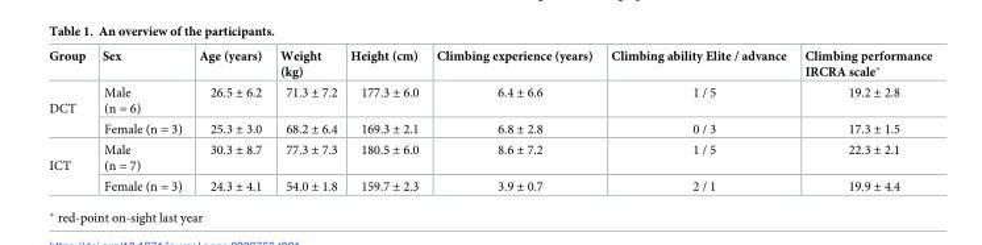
<table><thead><tr><td>Group</td><td>Sex</td><td>Age (years)</td><td>Weight (kg)</td><td>Height (cm)</td><td>Climbing experience (years)</td><td>Climbing ability Elite / advance</td><td>Climbing performance IRCRA scale*</td></tr></thead><tbody><tr><td rowspan="2">DCT</td><td>Male (n = 6)</td><td>26.5 ± 6.2</td><td>71.3 ± 7.2</td><td>177.3 ± 6.0</td><td>6.4 ± 6.6</td><td>1 / 5</td><td>19.2 ± 2.8</td></tr><tr><td>Female (n = 3)</td><td>25.3 ± 3.0</td><td>68.2 ± 6.4</td><td>169.3 ± 2.1</td><td>6.8 ± 2.8</td><td>0 / 3</td><td>17.3 ± 1.5</td></tr><tr><td rowspan="2">ICT</td><td>Male (n = 7)</td><td>30.3 ± 8.7</td><td>77.3 ± 7.3</td><td>180.5 ± 6.0</td><td>8.6 ± 7.2</td><td>1 / 5</td><td>22.3 ± 2.1</td></tr><tr><td>Female (n = 3)</td><td>24.3 ± 4.1</td><td>54.0 ± 1.8</td><td>159.7 ± 2.3</td><td>3.9 ± 0.7</td><td>2 / 1</td><td>19.9 ± 4.4</td></tr></tbody></table>